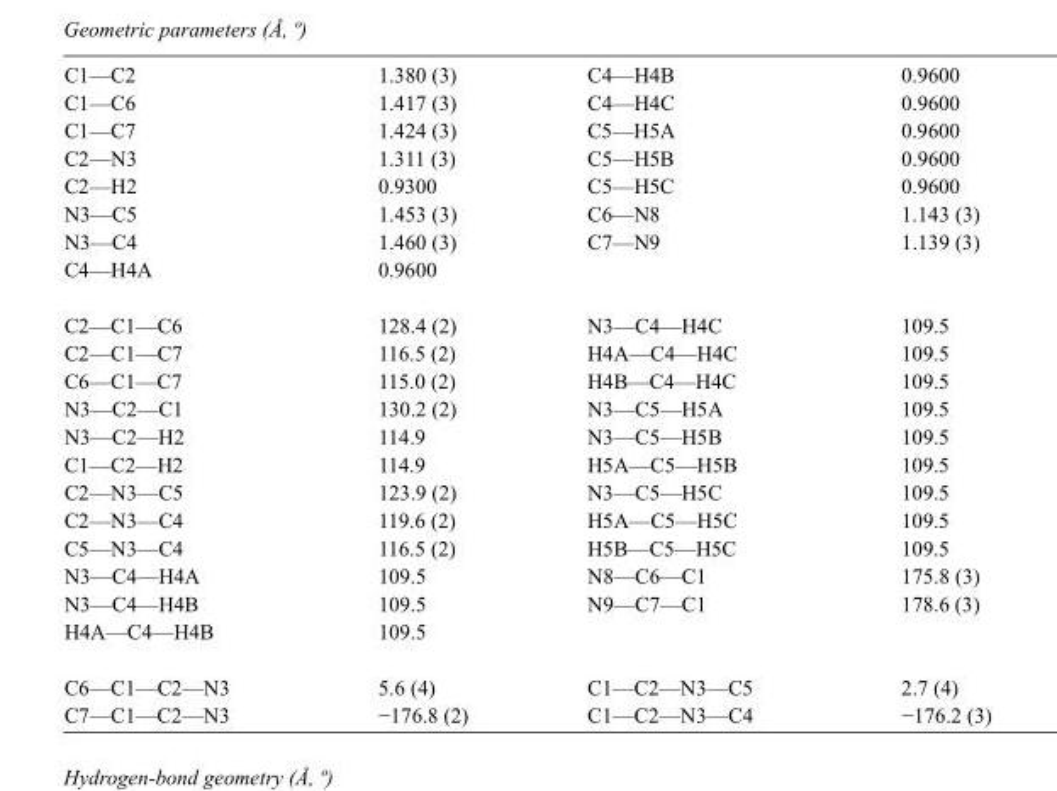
<table><tbody><tr><td>C1—C2</td><td>1.380 (3)</td><td>C4—H4B</td><td>0.9600</td></tr><tr><td>C1—C6</td><td>1.417 (3)</td><td>C4—H4C</td><td>0.9600</td></tr><tr><td>C1—C7</td><td>1.424 (3)</td><td>C5—H5A</td><td>0.9600</td></tr><tr><td>C2—N3</td><td>1.311 (3)</td><td>C5—H5B</td><td>0.9600</td></tr><tr><td>C2—H2</td><td>0.9300</td><td>C5—H5C</td><td>0.9600</td></tr><tr><td>N3—C5</td><td>1.453 (3)</td><td>C6—N8</td><td>1.143 (3)</td></tr><tr><td>N3—C4</td><td>1.460 (3)</td><td>C7—N9</td><td>1.139 (3)</td></tr><tr><td>C4—H4A</td><td>0.9600</td><td></td><td></td></tr><tr><td>C2—C1—C6</td><td>128.4 (2)</td><td>N3—C4—H4C</td><td>109.5</td></tr><tr><td>C2—C1—C7</td><td>116.5 (2)</td><td>H4A—C4—H4C</td><td>109.5</td></tr><tr><td>C6—C1—C7</td><td>115.0 (2)</td><td>H4B—C4—H4C</td><td>109.5</td></tr><tr><td>N3—C2—C1</td><td>130.2 (2)</td><td>N3—C5—H5A</td><td>109.5</td></tr><tr><td>N3—C2—H2</td><td>114.9</td><td>N3—C5—H5B</td><td>109.5</td></tr><tr><td>C1—C2—H2</td><td>114.9</td><td>H5A—C5—H5B</td><td>109.5</td></tr><tr><td>C2—N3—C5</td><td>123.9 (2)</td><td>N3—C5—H5C</td><td>109.5</td></tr><tr><td>C2—N3—C4</td><td>119.6 (2)</td><td>H5A—C5—H5C</td><td>109.5</td></tr><tr><td>C5—N3—C4</td><td>116.5 (2)</td><td>H5B—C5—H5C</td><td>109.5</td></tr><tr><td>N3—C4—H4A</td><td>109.5</td><td>N8—C6—C1</td><td>175.8 (3)</td></tr><tr><td>N3—C4—H4B</td><td>109.5</td><td>N9—C7—C1</td><td>178.6 (3)</td></tr><tr><td>H4A—C4—H4B</td><td>109.5</td><td></td><td></td></tr><tr><td>C6—C1—C2—N3</td><td>5.6 (4)</td><td>C1—C2—N3—C5</td><td>2.7 (4)</td></tr><tr><td>C7—C1—C2—N3</td><td>−176.8 (2)</td><td>C1—C2—N3—C4</td><td>−176.2 (3)</td></tr></tbody></table>